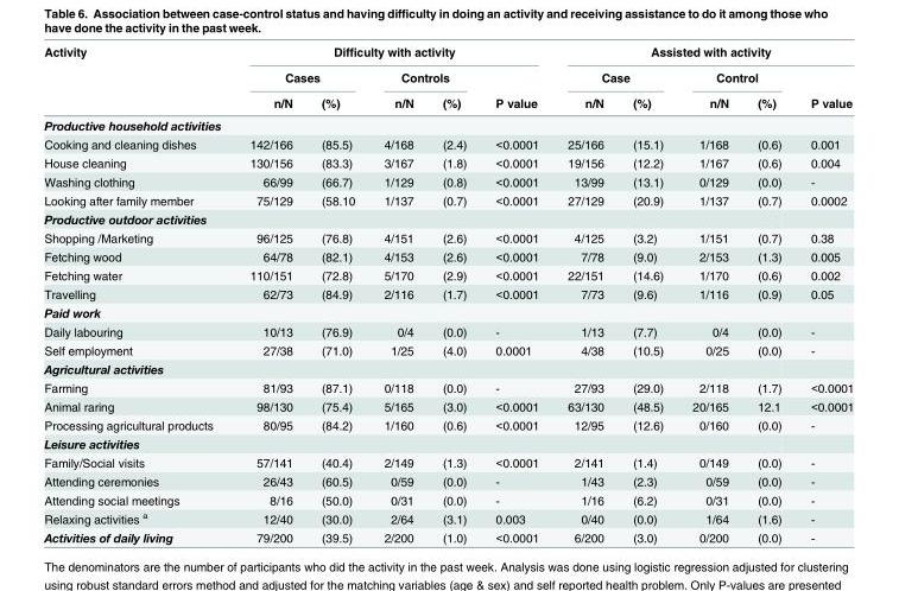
<table><thead><tr><td rowspan="3">Activity</td><td colspan="5">Difficulty with activity</td><td colspan="5">Assisted with activity</td></tr><tr><td colspan="2">Cases</td><td colspan="2">Controls</td><td rowspan="2">P value</td><td colspan="2">Case</td><td colspan="2">Control</td><td rowspan="2">P value</td></tr><tr><td>n/N</td><td>(%)</td><td>n/N</td><td>(%)</td><td>n/N</td><td>(%)</td><td>n/N</td><td>(%)</td></tr></thead><tbody><tr><td colspan="11">Productive household activities</td></tr><tr><td>Cooking and cleaning dishes</td><td>142/166</td><td>(85.5)</td><td>4/168</td><td>(2.4)</td><td>&lt;0.0001</td><td>25/166</td><td>(15.1)</td><td>1/168</td><td>(0.6)</td><td>0.001</td></tr><tr><td>House cleaning</td><td>130/156</td><td>(83.3)</td><td>3/167</td><td>(1.8)</td><td>&lt;0.0001</td><td>19/156</td><td>(12.2)</td><td>1/167</td><td>(0.6)</td><td>0.004</td></tr><tr><td>Washing clothing</td><td>66/99</td><td>(66.7)</td><td>1/129</td><td>(0.8)</td><td>&lt;0.0001</td><td>13/99</td><td>(13.1)</td><td>0/129</td><td>(0.0)</td><td>-</td></tr><tr><td>Looking after family member</td><td>75/129</td><td>(58.10</td><td>1/137</td><td>(0.7)</td><td>&lt;0.0001</td><td>27/129</td><td>(20.9)</td><td>1/137</td><td>(0.7)</td><td>0.0002</td></tr><tr><td colspan="11">Productive outdoor activities</td></tr><tr><td>Shopping /Marketing</td><td>96/125</td><td>(76.8)</td><td>4/151</td><td>(2.6)</td><td>&lt;0.0001</td><td>4/125</td><td>(3.2)</td><td>1/151</td><td>(0.7)</td><td>0.38</td></tr><tr><td>Fetching wood</td><td>64/78</td><td>(82.1)</td><td>4/153</td><td>(2.6)</td><td>&lt;0.0001</td><td>7/78</td><td>(9.0)</td><td>2/153</td><td>(1.3)</td><td>0.005</td></tr><tr><td>Fetching water</td><td>110/151</td><td>(72.8)</td><td>5/170</td><td>(2.9)</td><td>&lt;0.0001</td><td>22/151</td><td>(14.6)</td><td>1/170</td><td>(0.6)</td><td>0.002</td></tr><tr><td>Travelling</td><td>62/73</td><td>(84.9)</td><td>2/116</td><td>(1.7)</td><td>&lt;0.0001</td><td>7/73</td><td>(9.6)</td><td>1/116</td><td>(0.9)</td><td>0.05</td></tr><tr><td colspan="11">Paid work</td></tr><tr><td>Daily labouring</td><td>10/13</td><td>(76.9)</td><td>0/4</td><td>(0.0)</td><td>-</td><td>1/13</td><td>(7.7)</td><td>0/4</td><td>(0.0)</td><td>-</td></tr><tr><td>Self employment</td><td>27/38</td><td>(71.0)</td><td>1/25</td><td>(4.0)</td><td>0.0001</td><td>4/38</td><td>(10.5)</td><td>0/25</td><td>(0.0)</td><td>-</td></tr><tr><td colspan="11">Agricultural activities</td></tr><tr><td>Farming</td><td>81/93</td><td>(87.1)</td><td>0/118</td><td>(0.0)</td><td>-</td><td>27/93</td><td>(29.0)</td><td>2/118</td><td>(1.7)</td><td>&lt;0.0001</td></tr><tr><td>Animal raring</td><td>98/130</td><td>(75.4)</td><td>5/165</td><td>(3.0)</td><td>&lt;0.0001</td><td>63/130</td><td>(48.5)</td><td>20/165</td><td>12.1</td><td>&lt;0.0001</td></tr><tr><td>Processing agricultural products</td><td>80/95</td><td>(84.2)</td><td>1/160</td><td>(0.6)</td><td>&lt;0.0001</td><td>12/95</td><td>(12.6)</td><td>0/160</td><td>(0.0)</td><td>-</td></tr><tr><td colspan="11">Leisure activities</td></tr><tr><td>Family/Social visits</td><td>57/141</td><td>(40.4)</td><td>2/149</td><td>(1.3)</td><td>&lt;0.0001</td><td>2/141</td><td>(1.4)</td><td>0/149</td><td>(0.0)</td><td>-</td></tr><tr><td>Attending ceremonies</td><td>26/43</td><td>(60.5)</td><td>0/59</td><td>(0.0)</td><td>-</td><td>1/43</td><td>(2.3)</td><td>0/59</td><td>(0.0)</td><td>-</td></tr><tr><td>Attending social meetings</td><td>8/16</td><td>(50.0)</td><td>0/31</td><td>(0.0)</td><td>-</td><td>1/16</td><td>(6.2)</td><td>0/31</td><td>(0.0)</td><td>-</td></tr><tr><td>Relaxing activities <sup>a</sup></td><td>12/40</td><td>(30.0)</td><td>2/64</td><td>(3.1)</td><td>0.003</td><td>0/40</td><td>(0.0)</td><td>1/64</td><td>(1.6)</td><td>-</td></tr><tr><td>Activities of daily living</td><td>79/200</td><td>(39.5)</td><td>2/200</td><td>(1.0)</td><td>&lt;0.0001</td><td>6/200</td><td>(3.0)</td><td>0/200</td><td>(0.0)</td><td>-</td></tr></tbody></table>